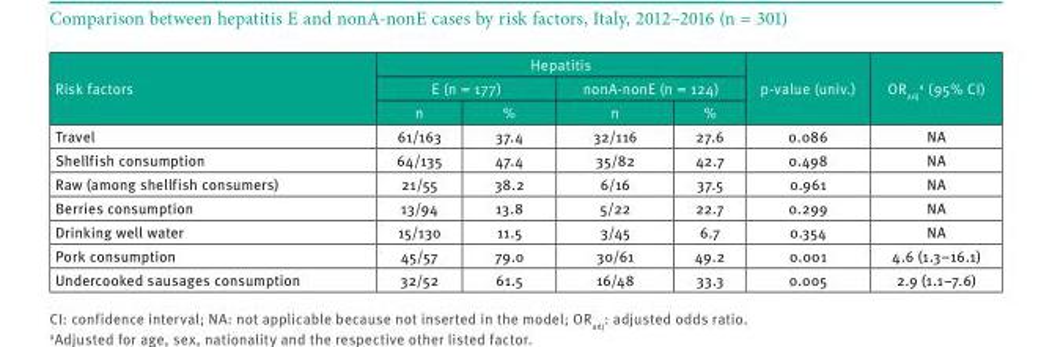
<table><thead><tr><td rowspan="3">Risk factors</td><td colspan="4">Hepatitis</td><td rowspan="3">p-value (univ.)</td><td rowspan="3">OR<sub>adj</sub> <sup>a</sup> (95% CI)</td></tr><tr><td colspan="2">E (n = 177)</td><td colspan="2">nonA-nonE (n = 124)</td></tr><tr><td>n</td><td>%</td><td>n</td><td>%</td></tr></thead><tbody><tr><td>Travel</td><td>61/163</td><td>37.4</td><td>32/116</td><td>27.6</td><td>0.086</td><td>NA</td></tr><tr><td>Shellfish consumption</td><td>64/135</td><td>47.4</td><td>35/82</td><td>42.7</td><td>0.498</td><td>NA</td></tr><tr><td>Raw (among shellfish consumers)</td><td>21/55</td><td>38.2</td><td>6/16</td><td>37.5</td><td>0.961</td><td>NA</td></tr><tr><td>Berries consumption</td><td>13/94</td><td>13.8</td><td>5/22</td><td>22.7</td><td>0.299</td><td>NA</td></tr><tr><td>Drinking well water</td><td>15/130</td><td>11.5</td><td>3/45</td><td>6.7</td><td>0.354</td><td>NA</td></tr><tr><td>Pork consumption</td><td>45/57</td><td>79.0</td><td>30/61</td><td>49.2</td><td>0.001</td><td>4.6 (1.3–16.1)</td></tr><tr><td>Undercooked sausages consumption</td><td>32/52</td><td>61.5</td><td>16/48</td><td>33.3</td><td>0.005</td><td>2.9 (1.1–7.6)</td></tr></tbody></table>